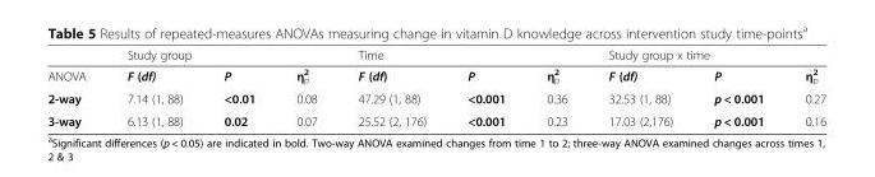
<table><thead><tr><td rowspan="2">ANOVA</td><td colspan="3">Study group</td><td colspan="3">Time</td><td colspan="3">Study group x time</td></tr><tr><td>F (df)</td><td>P</td><td>η<sub>p</sub> <sup>2</sup></td><td>F (df)</td><td>P</td><td>η<sub>p</sub> <sup>2</sup></td><td>F (df)</td><td>P</td><td>η<sub>p</sub> <sup>2</sup></td></tr></thead><tbody><tr><td>2-way</td><td>7.14 (1, 88)</td><td>&lt;0.01</td><td>0.08</td><td>47.29 (1, 88)</td><td>&lt;0.001</td><td>0.36</td><td>32.53 (1, 88)</td><td>p &lt; 0.001</td><td>0.27</td></tr><tr><td>3-way</td><td>6.13 (1, 88)</td><td>0.02</td><td>0.07</td><td>25.52 (2, 176)</td><td>&lt;0.001</td><td>0.23</td><td>17.03 (2,176)</td><td>p &lt; 0.001</td><td>0.16</td></tr></tbody></table>